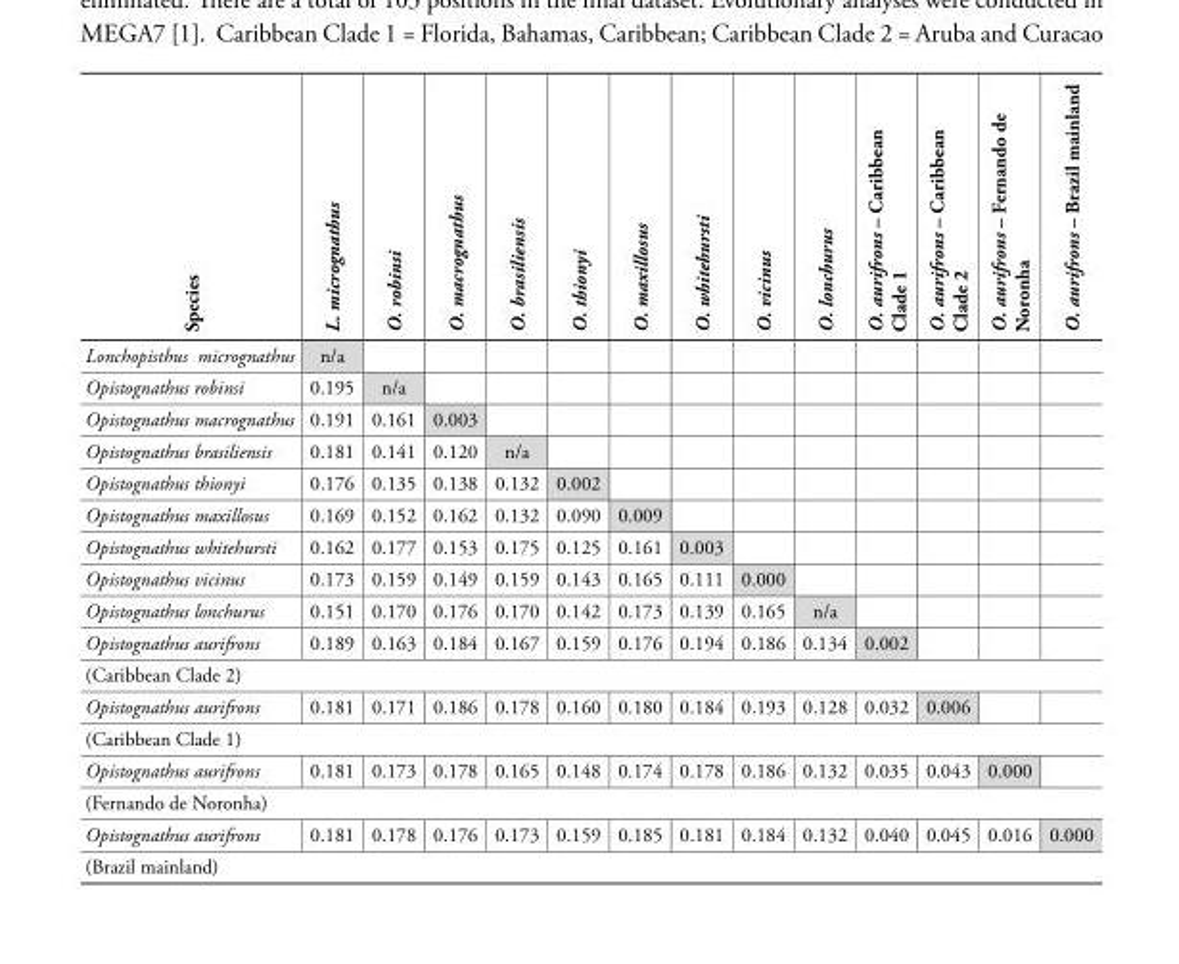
<table><thead><tr><td>Species</td><td>L. micrognathus</td><td>O. robinsi</td><td>O. macrognathus</td><td>O. brasiliensis</td><td>O. thionyi</td><td>O. maxillosus</td><td>O. whitehursti</td><td>O. vicinus</td><td>O. lonchurus</td><td>O. aurifrons – Caribbean Clade 1</td><td>O. aurifrons – Caribbean Clade 2</td><td>O. aurifrons – Fernando de Noronha</td><td>O. aurifrons – Brazil mainland</td></tr></thead><tbody><tr><td>Lonchopisthus micrognathus</td><td>n/a</td><td></td><td></td><td></td><td></td><td></td><td></td><td></td><td></td><td></td><td></td><td></td><td></td></tr><tr><td>Opistognathus robinsi</td><td>0.195</td><td>n/a</td><td></td><td></td><td></td><td></td><td></td><td></td><td></td><td></td><td></td><td></td><td></td></tr><tr><td>Opistognathus macrognathus</td><td>0.191</td><td>0.161</td><td>0.003</td><td></td><td></td><td></td><td></td><td></td><td></td><td></td><td></td><td></td><td></td></tr><tr><td>Opistognathus brasiliensis</td><td>0.181</td><td>0.141</td><td>0.120</td><td>n/a</td><td></td><td></td><td></td><td></td><td></td><td></td><td></td><td></td><td></td></tr><tr><td>Opistognathus thionyi</td><td>0.176</td><td>0.135</td><td>0.138</td><td>0.132</td><td>0.002</td><td></td><td></td><td></td><td></td><td></td><td></td><td></td><td></td></tr><tr><td>Opistognathus maxillosus</td><td>0.169</td><td>0.152</td><td>0.162</td><td>0.132</td><td>0.090</td><td>0.009</td><td></td><td></td><td></td><td></td><td></td><td></td><td></td></tr><tr><td>Opistognathus whitehursti</td><td>0.162</td><td>0.177</td><td>0.153</td><td>0.175</td><td>0.125</td><td>0.161</td><td>0.003</td><td></td><td></td><td></td><td></td><td></td><td></td></tr><tr><td>Opistognathus vicinus</td><td>0.173</td><td>0.159</td><td>0.149</td><td>0.159</td><td>0.143</td><td>0.165</td><td>0.111</td><td>0.000</td><td></td><td></td><td></td><td></td><td></td></tr><tr><td>Opistognathus lonchurus</td><td>0.151</td><td>0.170</td><td>0.176</td><td>0.170</td><td>0.142</td><td>0.173</td><td>0.139</td><td>0.165</td><td>n/a</td><td></td><td></td><td></td><td></td></tr><tr><td>Opistognathus aurifrons</td><td>0.189</td><td>0.163</td><td>0.184</td><td>0.167</td><td>0.159</td><td>0.176</td><td>0.194</td><td>0.186</td><td>0.134</td><td>0.002</td><td></td><td></td><td></td></tr><tr><td colspan="14">(Caribbean Clade 2)</td></tr><tr><td>Opistognathus aurifrons</td><td>0.181</td><td>0.171</td><td>0.186</td><td>0.178</td><td>0.160</td><td>0.180</td><td>0.184</td><td>0.193</td><td>0.128</td><td>0.032</td><td>0.006</td><td></td><td></td></tr><tr><td colspan="14">(Caribbean Clade 1)</td></tr><tr><td>Opistognathus aurifrons</td><td>0.181</td><td>0.173</td><td>0.178</td><td>0.165</td><td>0.148</td><td>0.174</td><td>0.178</td><td>0.186</td><td>0.132</td><td>0.035</td><td>0.043</td><td>0.000</td><td></td></tr><tr><td colspan="14">(Fernando de Noronha)</td></tr><tr><td>Opistognathus aurifrons</td><td>0.181</td><td>0.178</td><td>0.176</td><td>0.173</td><td>0.159</td><td>0.185</td><td>0.181</td><td>0.184</td><td>0.132</td><td>0.040</td><td>0.045</td><td>0.016</td><td>0.000</td></tr><tr><td colspan="14">(Brazil mainland)</td></tr></tbody></table>